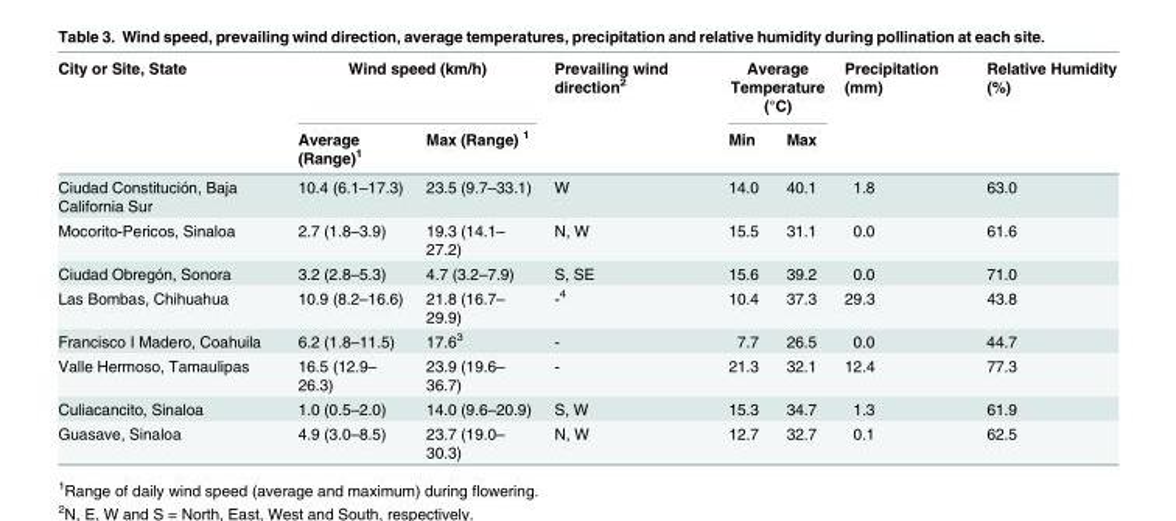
<table><thead><tr><td rowspan="2">City or Site, State</td><td colspan="2">Wind speed (km/h)</td><td rowspan="2">Prevailing wind direction<sup>2</sup></td><td colspan="2">Average Temperature (°C)</td><td rowspan="2">Precipitation (mm)</td><td rowspan="2">Relative Humidity (%)</td></tr><tr><td>Average (Range)<sup>1</sup></td><td>Max (Range) <sup>1</sup></td><td>Min</td><td>Max</td></tr></thead><tbody><tr><td>Ciudad Constitución, Baja California Sur</td><td>10.4 (6.1–17.3)</td><td>23.5 (9.7–33.1)</td><td>W</td><td>14.0</td><td>40.1</td><td>1.8</td><td>63.0</td></tr><tr><td>Mocorito-Pericos, Sinaloa</td><td>2.7 (1.8–3.9)</td><td>19.3 (14.1– 27.2)</td><td>N, W</td><td>15.5</td><td>31.1</td><td>0.0</td><td>61.6</td></tr><tr><td>Ciudad Obregón, Sonora</td><td>3.2 (2.8–5.3)</td><td>4.7 (3.2–7.9)</td><td>S, SE</td><td>15.6</td><td>39.2</td><td>0.0</td><td>71.0</td></tr><tr><td>Las Bombas, Chihuahua</td><td>10.9 (8.2–16.6)</td><td>21.8 (16.7– 29.9)</td><td>-<sup>4</sup></td><td>10.4</td><td>37.3</td><td>29.3</td><td>43.8</td></tr><tr><td>Francisco I Madero, Coahuila</td><td>6.2 (1.8–11.5)</td><td>17.6<sup>3</sup></td><td>-</td><td>7.7</td><td>26.5</td><td>0.0</td><td>44.7</td></tr><tr><td>Valle Hermoso, Tamaulipas</td><td>16.5 (12.9– 26.3)</td><td>23.9 (19.6– 36.7)</td><td>-</td><td>21.3</td><td>32.1</td><td>12.4</td><td>77.3</td></tr><tr><td>Culiacancito, Sinaloa</td><td>1.0 (0.5–2.0)</td><td>14.0 (9.6–20.9)</td><td>S, W</td><td>15.3</td><td>34.7</td><td>1.3</td><td>61.9</td></tr><tr><td>Guasave, Sinaloa</td><td>4.9 (3.0–8.5)</td><td>23.7 (19.0– 30.3)</td><td>N, W</td><td>12.7</td><td>32.7</td><td>0.1</td><td>62.5</td></tr></tbody></table>